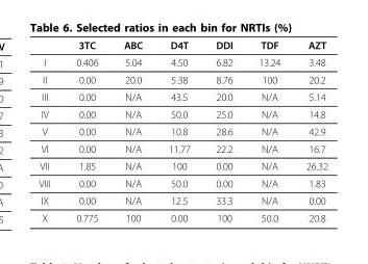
<table><thead><tr><td></td><td>3TC</td><td>ABC</td><td>D4T</td><td>DDI</td><td>TDF</td><td>AZT</td></tr></thead><tbody><tr><td>I</td><td>0.406</td><td>5.04</td><td>4.50</td><td>6.82</td><td>13.24</td><td>3.48</td></tr><tr><td>II</td><td>0.00</td><td>20.0</td><td>5.38</td><td>8.76</td><td>100</td><td>20.2</td></tr><tr><td>III</td><td>0.00</td><td>N/A</td><td>43.5</td><td>20.0</td><td>N/A</td><td>5.14</td></tr><tr><td>IV</td><td>0.00</td><td>N/A</td><td>50.0</td><td>25.0</td><td>N/A</td><td>14.8</td></tr><tr><td>V</td><td>0.00</td><td>N/A</td><td>10.8</td><td>28.6</td><td>N/A</td><td>42.9</td></tr><tr><td>VI</td><td>0.00</td><td>N/A</td><td>11.77</td><td>22.2</td><td>N/A</td><td>16.7</td></tr><tr><td>VII</td><td>1.85</td><td>N/A</td><td>100</td><td>0.00</td><td>N/A</td><td>26.32</td></tr><tr><td>VIII</td><td>0.00</td><td>N/A</td><td>50.0</td><td>0.00</td><td>N/A</td><td>1.83</td></tr><tr><td>IX</td><td>0.00</td><td>N/A</td><td>12.5</td><td>33.3</td><td>N/A</td><td>0.00</td></tr><tr><td>X</td><td>0.775</td><td>100</td><td>0.00</td><td>100</td><td>50.0</td><td>20.8</td></tr></tbody></table>